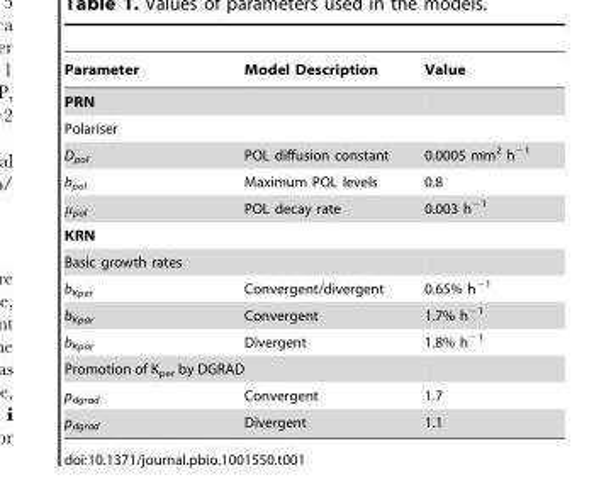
<table><thead><tr><td>Parameter</td><td>Model Description</td><td>Value</td></tr></thead><tbody><tr><td colspan="3">PRN</td></tr><tr><td colspan="3">Polariser</td></tr><tr><td>D<sub>pol</sub></td><td>POL diffusion constant</td><td>0.0005 mm<sup>2</sup> h<sup>−1</sup></td></tr><tr><td>b<sub>pol</sub></td><td>Maximum POL levels</td><td>0.8</td></tr><tr><td>μ<sub>pol</sub></td><td>POL decay rate</td><td>0.003 h<sup>−1</sup></td></tr><tr><td colspan="3">KRN</td></tr><tr><td colspan="3">Basic growth rates</td></tr><tr><td>b<sub>Kper</sub></td><td>Convergent/divergent</td><td>0.65% h<sup>−1</sup></td></tr><tr><td>b<sub>Kpar</sub></td><td>Convergent</td><td>1.7% h<sup>−1</sup></td></tr><tr><td>b<sub>Kpar</sub></td><td>Divergent</td><td>1.8% h<sup>−1</sup></td></tr><tr><td colspan="3">Promotion of K<sub>per</sub> by DGRAD</td></tr><tr><td>p<sub>dgrad</sub></td><td>Convergent</td><td>1.7</td></tr><tr><td>p<sub>dgrad</sub></td><td>Divergent</td><td>1.1</td></tr></tbody></table>